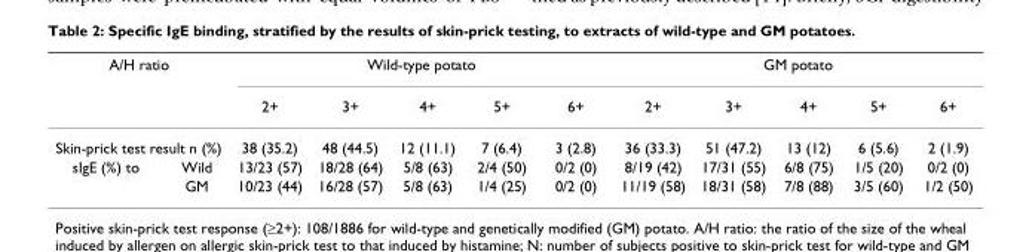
<table><thead><tr><td colspan="2">A/H ratio</td><td colspan="5">Wild-type potato</td><td colspan="5">GM potato</td></tr><tr><td></td><td></td><td>2+</td><td>3+</td><td>4+</td><td>5+</td><td>6+</td><td>2+</td><td>3+</td><td>4+</td><td>5+</td><td>6+</td></tr></thead><tbody><tr><td colspan="2">Skin-prick test result n (%)</td><td>38 (35.2)</td><td>48 (44.5)</td><td>12 (11.1)</td><td>7 (6.4)</td><td>3 (2.8)</td><td>36 (33.3)</td><td>51 (47.2)</td><td>13 (12)</td><td>6 (5.6)</td><td>2 (1.9)</td></tr><tr><td rowspan="2">sIgE (%) to</td><td>Wild</td><td>13/23 (57)</td><td>18/28 (64)</td><td>5/8 (63)</td><td>2/4 (50)</td><td>0/2 (0)</td><td>8/19 (42)</td><td>17/31 (55)</td><td>6/8 (75)</td><td>1/5 (20)</td><td>0/2 (0)</td></tr><tr><td>GM</td><td>10/23 (44)</td><td>16/28 (57)</td><td>5/8 (63)</td><td>1/4 (25)</td><td>0/2 (0)</td><td>11/19 (58)</td><td>18/31 (58)</td><td>7/8 (88)</td><td>3/5 (60)</td><td>1/2 (50)</td></tr></tbody></table>